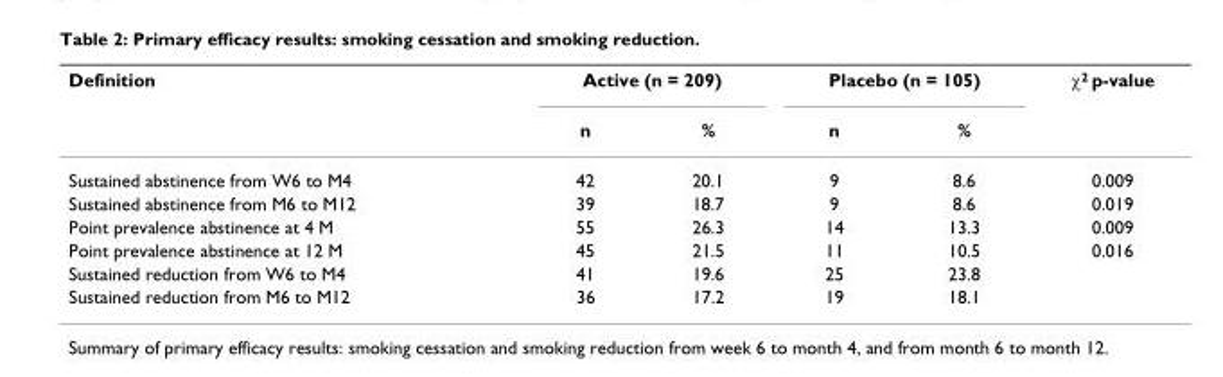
<table><thead><tr><td rowspan="2">Definition</td><td colspan="2">Active (n = 209)</td><td colspan="2">Placebo (n = 105)</td><td rowspan="2">χ<sup>2</sup> p-value</td></tr><tr><td>n</td><td>%</td><td>n</td><td>%</td></tr></thead><tbody><tr><td>Sustained abstinence from W6 to M4</td><td>42</td><td>20.1</td><td>9</td><td>8.6</td><td>0.009</td></tr><tr><td>Sustained abstinence from M6 to M12</td><td>39</td><td>18.7</td><td>9</td><td>8.6</td><td>0.019</td></tr><tr><td>Point prevalence abstinence at 4 M</td><td>55</td><td>26.3</td><td>14</td><td>13.3</td><td>0.009</td></tr><tr><td>Point prevalence abstinence at 12 M</td><td>45</td><td>21.5</td><td>11</td><td>10.5</td><td>0.016</td></tr><tr><td>Sustained reduction from W6 to M4</td><td>41</td><td>19.6</td><td>25</td><td>23.8</td><td></td></tr><tr><td>Sustained reduction from M6 to M12</td><td>36</td><td>17.2</td><td>19</td><td>18.1</td><td></td></tr></tbody></table>